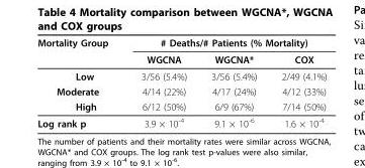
<table><thead><tr><td rowspan="2">Mortality Group</td><td colspan="3"># Deaths/# Patients (% Mortality)</td></tr><tr><td>WGCNA</td><td>WGCNA*</td><td>COX</td></tr></thead><tbody><tr><td>Low</td><td>3/56 (5.4%)</td><td>3/56 (5.4%)</td><td>2/49 (4.1%)</td></tr><tr><td>Moderate</td><td>4/14 (22%)</td><td>4/17 (24%)</td><td>4/12 (33%)</td></tr><tr><td>High</td><td>6/12 (50%)</td><td>6/9 (67%)</td><td>7/14 (50%)</td></tr><tr><td>Log rank p</td><td>3.9 × 10<sup>-4</sup></td><td>9.1 × 10<sup>-6</sup></td><td>1.6 × 10<sup>-4</sup></td></tr></tbody></table>